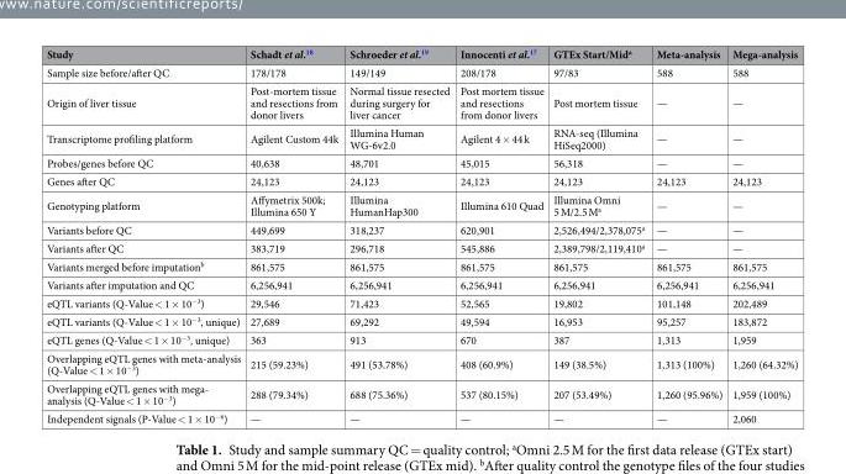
<table><thead><tr><td>Study</td><td>Schadt et al.<sup>18</sup></td><td>Schroeder et al.<sup>19</sup></td><td>Innocenti et al.<sup>17</sup></td><td>GTEx Start/Mid<sup>a</sup></td><td>Meta-analysis</td><td>Mega-analysis</td></tr></thead><tbody><tr><td>Sample size before/after QC</td><td>178/178</td><td>149/149</td><td>208/178</td><td>97/83</td><td>588</td><td>588</td></tr><tr><td>Origin of liver tissue</td><td>Post-mortem tissue and resections from donor livers</td><td>Normal tissue resected during surgery for liver cancer</td><td>Post mortem tissue and resections from donor livers</td><td>Post mortem tissue</td><td>—</td><td>—</td></tr><tr><td>Transcriptome profiling platform</td><td>Agilent Custom 44k</td><td>Illumina Human WG-6v2.0</td><td>Agilent 4 × 44 k</td><td>RNA-seq (Illumina HiSeq2000)</td><td>—</td><td>—</td></tr><tr><td>Probes/genes before QC</td><td>40,638</td><td>48,701</td><td>45,015</td><td>56,318</td><td>—</td><td>—</td></tr><tr><td>Genes after QC</td><td>24,123</td><td>24,123</td><td>24,123</td><td>24,123</td><td>24,123</td><td>24,123</td></tr><tr><td>Genotyping platform</td><td>Affymetrix 500k; Illumina 650 Y</td><td>Illumina HumanHap300</td><td>Illumina 610 Quad</td><td>Illumina Omni 5 M/2.5 M<sup>a</sup></td><td>—</td><td>—</td></tr><tr><td>Variants before QC</td><td>449,699</td><td>318,237</td><td>620,901</td><td>2,526,494/2,378,075<sup>a</sup></td><td>—</td><td>—</td></tr><tr><td>Variants after QC</td><td>383,719</td><td>296,718</td><td>545,886</td><td>2,389,798/2,119,410<sup>a</sup></td><td>—</td><td>—</td></tr><tr><td>Variants merged before imputation<sup>b</sup></td><td>861,575</td><td>861,575</td><td>861,575</td><td>861,575</td><td>861,575</td><td>861,575</td></tr><tr><td>Variants after imputation and QC</td><td>6,256,941</td><td>6,256,941</td><td>6,256,941</td><td>6,256,941</td><td>6,256,941</td><td>6,256,941</td></tr><tr><td>eQTL variants (Q-Value &lt; 1 × 10<sup>−3</sup>)</td><td>29,546</td><td>71,423</td><td>52,565</td><td>19,802</td><td>101,148</td><td>202,489</td></tr><tr><td>eQTL variants (Q-Value &lt; 1 × 10<sup>−3</sup>, unique)</td><td>27,689</td><td>69,292</td><td>49,594</td><td>16,953</td><td>95,257</td><td>183,872</td></tr><tr><td>eQTL genes (Q-Value &lt; 1 × 10<sup>−3</sup>, unique)</td><td>363</td><td>913</td><td>670</td><td>387</td><td>1,313</td><td>1,959</td></tr><tr><td>Overlapping eQTL genes with meta-analysis (Q-Value &lt; 1 × 10<sup>−3</sup>)</td><td>215 (59.23%)</td><td>491 (53.78%)</td><td>408 (60.9%)</td><td>149 (38.5%)</td><td>1,313 (100%)</td><td>1,260 (64.32%)</td></tr><tr><td>Overlapping eQTL genes with mega- analysis (Q-Value &lt; 1 × 10<sup>−3</sup>)</td><td>288 (79.34%)</td><td>688 (75.36%)</td><td>537 (80.15%)</td><td>207 (53.49%)</td><td>1,260 (95.96%)</td><td>1,959 (100%)</td></tr><tr><td>Independent signals (P-Value &lt; 1 × 10<sup>−6</sup>)</td><td>—</td><td>—</td><td>—</td><td>—</td><td>—</td><td>2,060</td></tr></tbody></table>